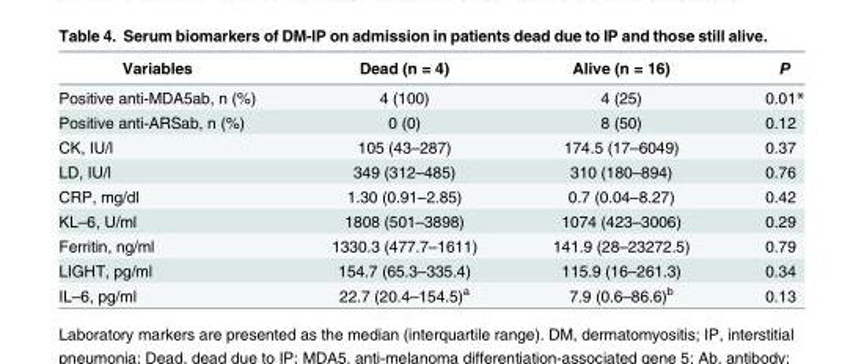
<table><thead><tr><td>Variables</td><td>Dead (n = 4)</td><td>Alive (n = 16)</td><td>P</td></tr></thead><tbody><tr><td>Positive anti-MDA5ab, n (%)</td><td>4 (100)</td><td>4 (25)</td><td>0.01*</td></tr><tr><td>Positive anti-ARSab, n (%)</td><td>0 (0)</td><td>8 (50)</td><td>0.12</td></tr><tr><td>CK, IU/l</td><td>105 (43–287)</td><td>174.5 (17–6049)</td><td>0.37</td></tr><tr><td>LD, IU/l</td><td>349 (312–485)</td><td>310 (180–894)</td><td>0.76</td></tr><tr><td>CRP, mg/dl</td><td>1.30 (0.91–2.85)</td><td>0.7 (0.04–8.27)</td><td>0.42</td></tr><tr><td>KL–6, U/ml</td><td>1808 (501–3898)</td><td>1074 (423–3006)</td><td>0.29</td></tr><tr><td>Ferritin, ng/ml</td><td>1330.3 (477.7–1611)</td><td>141.9 (28–23272.5)</td><td>0.79</td></tr><tr><td>LIGHT, pg/ml</td><td>154.7 (65.3–335.4)</td><td>115.9 (16–261.3)</td><td>0.34</td></tr><tr><td>IL–6, pg/ml</td><td>22.7 (20.4–154.5)<sup>a</sup></td><td>7.9 (0.6–86.6)<sup>b</sup></td><td>0.13</td></tr></tbody></table>